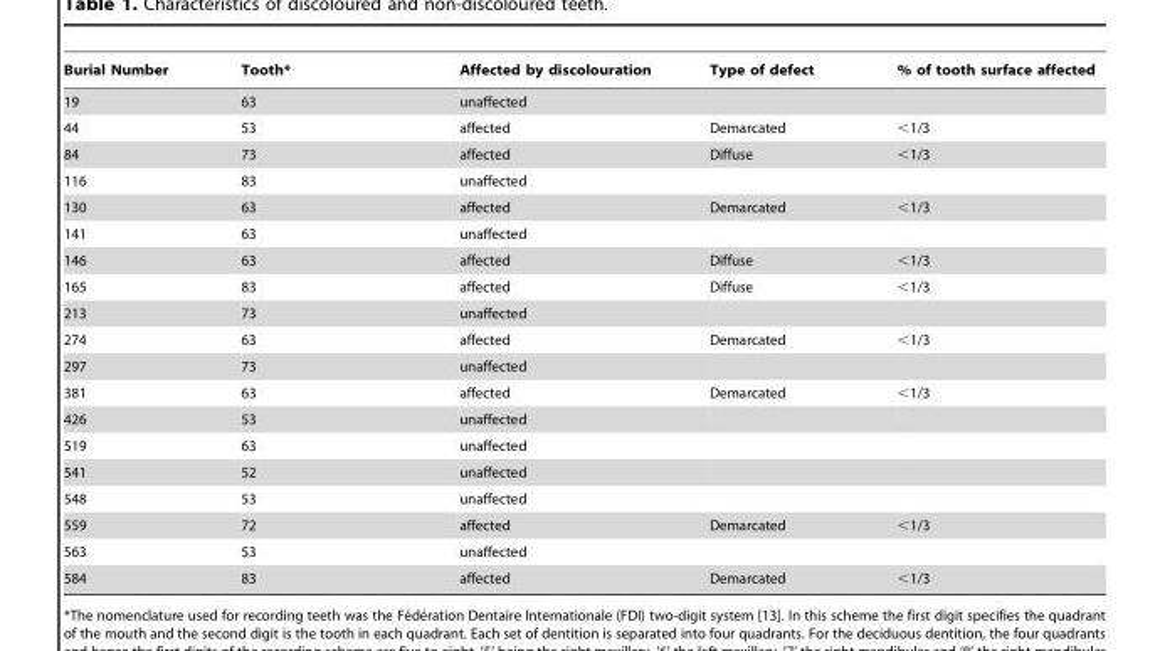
<table><thead><tr><td>Burial Number</td><td>Tooth*</td><td>Affected by discolouration</td><td>Type of defect</td><td>% of tooth surface affected</td></tr></thead><tbody><tr><td>19</td><td>63</td><td>unaffected</td><td></td><td></td></tr><tr><td>44</td><td>53</td><td>affected</td><td>Demarcated</td><td>&lt;1/3</td></tr><tr><td>84</td><td>73</td><td>affected</td><td>Diffuse</td><td>&lt;1/3</td></tr><tr><td>116</td><td>83</td><td>unaffected</td><td></td><td></td></tr><tr><td>130</td><td>63</td><td>affected</td><td>Demarcated</td><td>&lt;1/3</td></tr><tr><td>141</td><td>63</td><td>unaffected</td><td></td><td></td></tr><tr><td>146</td><td>63</td><td>affected</td><td>Diffuse</td><td>&lt;1/3</td></tr><tr><td>165</td><td>83</td><td>affected</td><td>Diffuse</td><td>&lt;1/3</td></tr><tr><td>213</td><td>73</td><td>unaffected</td><td></td><td></td></tr><tr><td>274</td><td>63</td><td>affected</td><td>Demarcated</td><td>&lt;1/3</td></tr><tr><td>297</td><td>73</td><td>unaffected</td><td></td><td></td></tr><tr><td>381</td><td>63</td><td>affected</td><td>Demarcated</td><td>&lt;1/3</td></tr><tr><td>426</td><td>53</td><td>unaffected</td><td></td><td></td></tr><tr><td>519</td><td>63</td><td>unaffected</td><td></td><td></td></tr><tr><td>541</td><td>52</td><td>unaffected</td><td></td><td></td></tr><tr><td>548</td><td>53</td><td>unaffected</td><td></td><td></td></tr><tr><td>559</td><td>72</td><td>affected</td><td>Demarcated</td><td>&lt;1/3</td></tr><tr><td>563</td><td>53</td><td>unaffected</td><td></td><td></td></tr><tr><td>584</td><td>83</td><td>affected</td><td>Demarcated</td><td>&lt;1/3</td></tr></tbody></table>